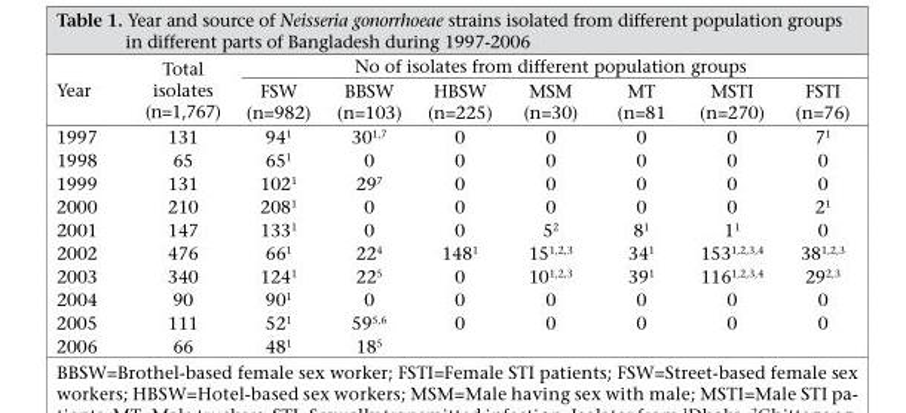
<table><thead><tr><td rowspan="2">Year</td><td rowspan="2">Total isolates (n=1,767)</td><td colspan="7">No of isolates from different population groups</td></tr><tr><td>FSW (n=982)</td><td>BBSW (n=103)</td><td>HBSW (n=225)</td><td>MSM (n=30)</td><td>MT (n=81</td><td>MSTI (n=270)</td><td>FSTI (n=76)</td></tr></thead><tbody><tr><td>1997</td><td>131</td><td>94<sup>1</sup></td><td>30<sup>1,7</sup></td><td>0</td><td>0</td><td>0</td><td>0</td><td>7<sup>1</sup></td></tr><tr><td>1998</td><td>65</td><td>65<sup>1</sup></td><td>0</td><td>0</td><td>0</td><td>0</td><td>0</td><td>0</td></tr><tr><td>1999</td><td>131</td><td>102<sup>1</sup></td><td>29<sup>7</sup></td><td>0</td><td>0</td><td>0</td><td>0</td><td>0</td></tr><tr><td>2000</td><td>210</td><td>208<sup>1</sup></td><td>0</td><td>0</td><td>0</td><td>0</td><td>0</td><td>2<sup>1</sup></td></tr><tr><td>2001</td><td>147</td><td>133<sup>1</sup></td><td>0</td><td>0</td><td>5<sup>2</sup></td><td>8<sup>1</sup></td><td>1<sup>1</sup></td><td>0</td></tr><tr><td>2002</td><td>476</td><td>66<sup>1</sup></td><td>22<sup>4</sup></td><td>148<sup>1</sup></td><td>15<sup>1,2,3</sup></td><td>34<sup>1</sup></td><td>153<sup>1,2,3,4</sup></td><td>38<sup>1,2,3</sup></td></tr><tr><td>2003</td><td>340</td><td>124<sup>1</sup></td><td>22<sup>5</sup></td><td>0</td><td>10<sup>1,2,3</sup></td><td>39<sup>1</sup></td><td>116<sup>1,2,3,4</sup></td><td>29<sup>2,3</sup></td></tr><tr><td>2004</td><td>90</td><td>90<sup>1</sup></td><td>0</td><td>0</td><td>0</td><td>0</td><td>0</td><td>0</td></tr><tr><td>2005</td><td>111</td><td>52<sup>1</sup></td><td>59<sup>5,6</sup></td><td>0</td><td>0</td><td>0</td><td>0</td><td>0</td></tr><tr><td>2006</td><td>66</td><td>48<sup>1</sup></td><td>18<sup>5</sup></td><td></td><td></td><td></td><td></td><td></td></tr></tbody></table>